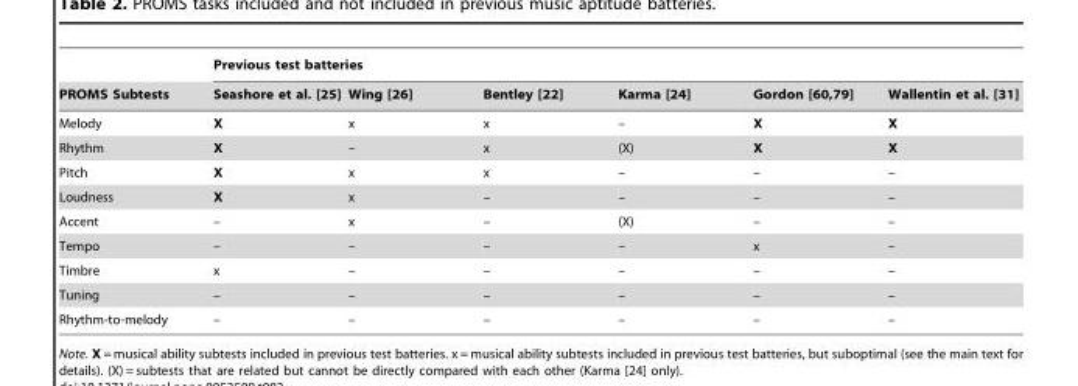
<table><thead><tr><td rowspan="2">PROMS Subtests</td><td colspan="6">Previous test batteries</td></tr><tr><td>Seashore et al. [25]</td><td>Wing [26]</td><td>Bentley [22]</td><td>Karma [24]</td><td>Gordon [60,79]</td><td>Wallentin et al. [31]</td></tr></thead><tbody><tr><td>Melody</td><td>X</td><td>x</td><td>x</td><td>–</td><td>X</td><td>X</td></tr><tr><td>Rhythm</td><td>X</td><td>–</td><td>x</td><td>(X)</td><td>X</td><td>X</td></tr><tr><td>Pitch</td><td>X</td><td>x</td><td>x</td><td>–</td><td>–</td><td>–</td></tr><tr><td>Loudness</td><td>X</td><td>x</td><td>–</td><td>–</td><td>–</td><td>–</td></tr><tr><td>Accent</td><td>–</td><td>x</td><td>–</td><td>(X)</td><td>–</td><td>–</td></tr><tr><td>Tempo</td><td>–</td><td>–</td><td>–</td><td>–</td><td>x</td><td>–</td></tr><tr><td>Timbre</td><td>x</td><td>–</td><td>–</td><td>–</td><td>–</td><td>–</td></tr><tr><td>Tuning</td><td>–</td><td>–</td><td>–</td><td>–</td><td>–</td><td>–</td></tr><tr><td>Rhythm-to-melody</td><td>–</td><td>–</td><td>–</td><td>–</td><td>–</td><td>–</td></tr></tbody></table>